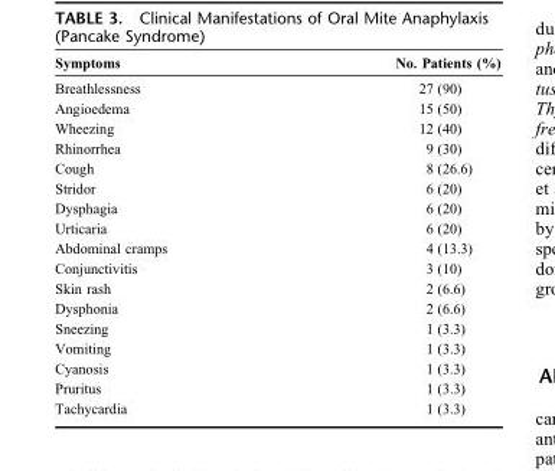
<table><thead><tr><td>Symptoms</td><td>No. Patients (%)</td></tr></thead><tbody><tr><td>Breathlessness</td><td>27 (90)</td></tr><tr><td>Angioedema</td><td>15 (50)</td></tr><tr><td>Wheezing</td><td>12 (40)</td></tr><tr><td>Rhinorrhea</td><td>9 (30)</td></tr><tr><td>Cough</td><td>8 (26.6)</td></tr><tr><td>Stridor</td><td>6 (20)</td></tr><tr><td>Dysphagia</td><td>6 (20)</td></tr><tr><td>Urticaria</td><td>6 (20)</td></tr><tr><td>Abdominal cramps</td><td>4 (13.3)</td></tr><tr><td>Conjunctivitis</td><td>3 (10)</td></tr><tr><td>Skin rash</td><td>2 (6.6)</td></tr><tr><td>Dysphonia</td><td>2 (6.6)</td></tr><tr><td>Sneezing</td><td>1 (3.3)</td></tr><tr><td>Vomiting</td><td>1 (3.3)</td></tr><tr><td>Cyanosis</td><td>1 (3.3)</td></tr><tr><td>Pruritus</td><td>1 (3.3)</td></tr><tr><td>Tachycardia</td><td>1 (3.3)</td></tr></tbody></table>